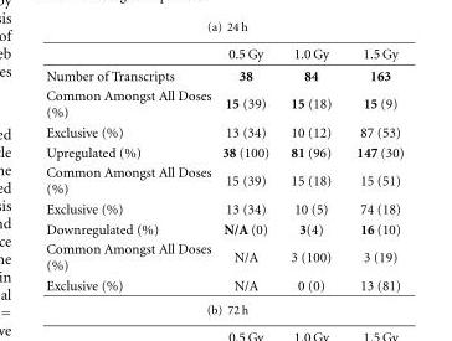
<table><thead><tr><td></td><td>0.5 Gy</td><td>1.0 Gy</td><td>1.5 Gy</td></tr></thead><tbody><tr><td>Number of Transcripts</td><td>38</td><td>84</td><td>163</td></tr><tr><td>Common Amongst All Doses (%)</td><td>15 (39)</td><td>15 (18)</td><td>15 (9)</td></tr><tr><td>Exclusive (%)</td><td>13 (34)</td><td>10 (12)</td><td>87 (53)</td></tr><tr><td>Upregulated (%)</td><td>38 (100)</td><td>81 (96)</td><td>147 (30)</td></tr><tr><td>Common Amongst All Doses (%)</td><td>15 (39)</td><td>15 (18)</td><td>15 (51)</td></tr><tr><td>Exclusive (%)</td><td>13 (34)</td><td>10 (5)</td><td>74 (18)</td></tr><tr><td>Downregulated (%)</td><td>N/A (0)</td><td>3(4)</td><td>16 (10)</td></tr><tr><td>Common Amongst All Doses (%)</td><td>N/A</td><td>3 (100)</td><td>3 (19)</td></tr><tr><td>Exclusive (%)</td><td>N/A</td><td>0 (0)</td><td>13 (81)</td></tr></tbody></table>